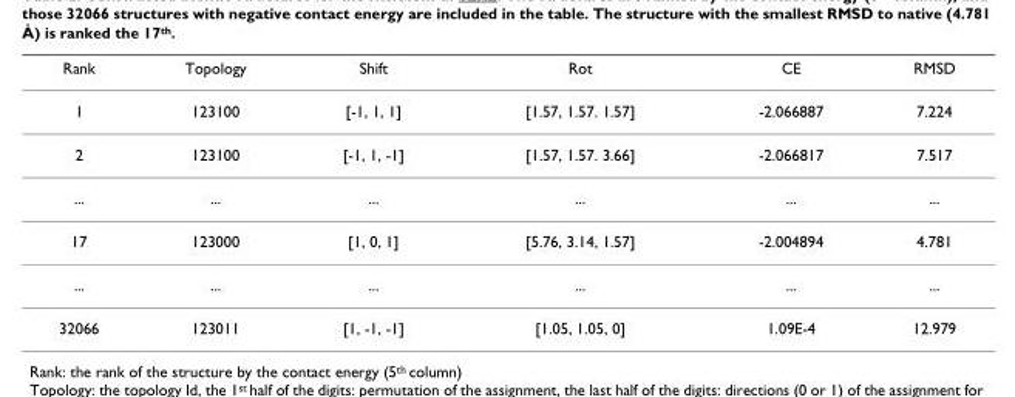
<table><thead><tr><td>Rank</td><td>Topology</td><td>Shift</td><td>Rot</td><td>CE</td><td>RMSD</td></tr></thead><tbody><tr><td>1</td><td>123100</td><td>[-1, 1, 1]</td><td>[1.57, 1.57. 1.57]</td><td>-2.066887</td><td>7.224</td></tr><tr><td>2</td><td>123100</td><td>[-1, 1, -1]</td><td>[1.57, 1.57. 3.66]</td><td>-2.066817</td><td>7.517</td></tr><tr><td>...</td><td>...</td><td>...</td><td>...</td><td>...</td><td>...</td></tr><tr><td>17</td><td>123000</td><td>[1, 0, 1]</td><td>[5.76, 3.14, 1.57]</td><td>-2.004894</td><td>4.781</td></tr><tr><td>...</td><td>...</td><td>...</td><td>...</td><td>...</td><td>...</td></tr><tr><td>32066</td><td>123011</td><td>[1, -1, -1]</td><td>[1.05, 1.05, 0]</td><td>1.09E-4</td><td>12.979</td></tr></tbody></table>